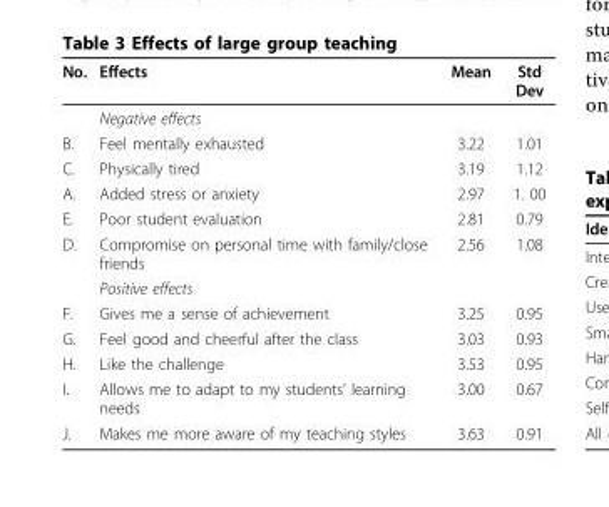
<table><thead><tr><td>No.</td><td>Effects</td><td>Mean</td><td>Std Dev</td></tr></thead><tbody><tr><td></td><td>Negative effects</td><td></td><td></td></tr><tr><td>B.</td><td>Feel mentally exhausted</td><td>3.22</td><td>1.01</td></tr><tr><td>C.</td><td>Physically tired</td><td>3.19</td><td>1.12</td></tr><tr><td>A.</td><td>Added stress or anxiety</td><td>2.97</td><td>1. 00</td></tr><tr><td>E.</td><td>Poor student evaluation</td><td>2.81</td><td>0.79</td></tr><tr><td rowspan="2">D.</td><td>Compromise on personal time with family/close friends</td><td>2.56</td><td>1.08</td></tr><tr><td>Positive effects</td><td></td><td></td></tr><tr><td>F.</td><td>Gives me a sense of achievement</td><td>3.25</td><td>0.95</td></tr><tr><td>G.</td><td>Feel good and cheerful after the class</td><td>3.03</td><td>0.93</td></tr><tr><td>H.</td><td>Like the challenge</td><td>3.53</td><td>0.95</td></tr><tr><td>I.</td><td>Allows me to adapt to my students’ learning needs</td><td>3.00</td><td>0.67</td></tr><tr><td>J.</td><td>Makes me more aware of my teaching styles</td><td>3.63</td><td>0.91</td></tr></tbody></table>